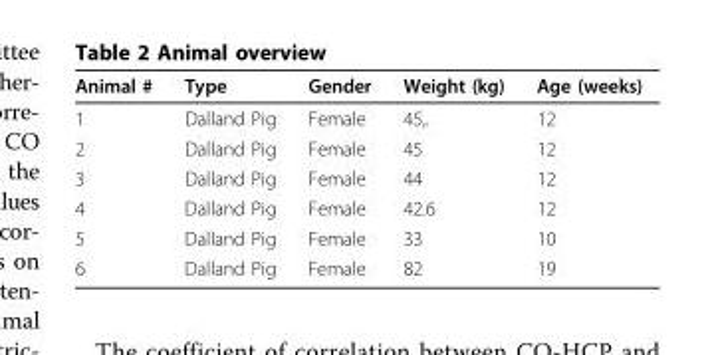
<table><thead><tr><td>Animal #</td><td>Type</td><td>Gender</td><td>Weight (kg)</td><td>Age (weeks)</td></tr></thead><tbody><tr><td>1</td><td>Dalland Pig</td><td>Female</td><td>45,.</td><td>12</td></tr><tr><td>2</td><td>Dalland Pig</td><td>Female</td><td>45</td><td>12</td></tr><tr><td>3</td><td>Dalland Pig</td><td>Female</td><td>44</td><td>12</td></tr><tr><td>4</td><td>Dalland Pig</td><td>Female</td><td>42.6</td><td>12</td></tr><tr><td>5</td><td>Dalland Pig</td><td>Female</td><td>33</td><td>10</td></tr><tr><td>6</td><td>Dalland Pig</td><td>Female</td><td>82</td><td>19</td></tr></tbody></table>